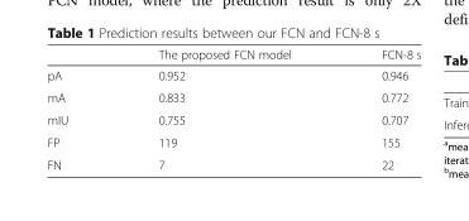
<table><thead><tr><td></td><td>The proposed FCN model</td><td>FCN-8 s</td></tr></thead><tbody><tr><td>pA</td><td>0.952</td><td>0.946</td></tr><tr><td>mA</td><td>0.833</td><td>0.772</td></tr><tr><td>mIU</td><td>0.755</td><td>0.707</td></tr><tr><td>FP</td><td>119</td><td>155</td></tr><tr><td>FN</td><td>7</td><td>22</td></tr></tbody></table>